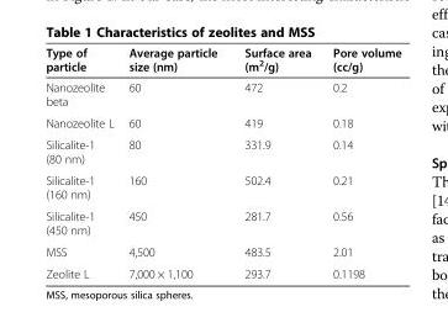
<table><thead><tr><td>Type of particle</td><td>Average particle size (nm)</td><td>Surface area (m<sup>2</sup>/g)</td><td>Pore volume (cc/g)</td></tr></thead><tbody><tr><td>Nanozeolite beta</td><td>60</td><td>472</td><td>0.2</td></tr><tr><td>Nanozeolite L</td><td>60</td><td>419</td><td>0.18</td></tr><tr><td>Silicalite-1 (80 nm)</td><td>80</td><td>331.9</td><td>0.14</td></tr><tr><td>Silicalite-1 (160 nm)</td><td>160</td><td>502.4</td><td>0.21</td></tr><tr><td>Silicalite-1 (450 nm)</td><td>450</td><td>281.7</td><td>0.56</td></tr><tr><td>MSS</td><td>4,500</td><td>483.5</td><td>2.01</td></tr><tr><td>Zeolite L</td><td>7,000 × 1,100</td><td>293.7</td><td>0.1198</td></tr></tbody></table>